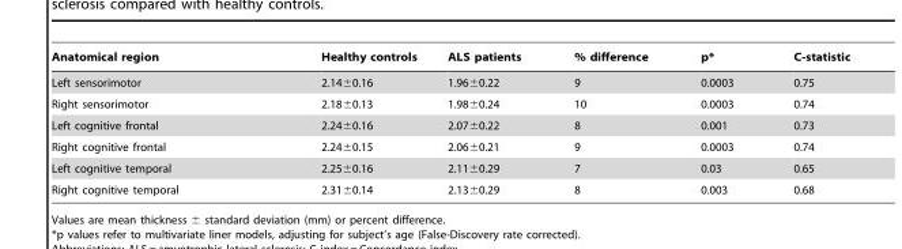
<table><thead><tr><td>Anatomical region</td><td>Healthy controls</td><td>ALS patients</td><td>% difference</td><td>p*</td><td>C-statistic</td></tr></thead><tbody><tr><td>Left sensorimotor</td><td>2.14±0.16</td><td>1.96±0.22</td><td>9</td><td>0.0003</td><td>0.75</td></tr><tr><td>Right sensorimotor</td><td>2.18±0.13</td><td>1.98±0.24</td><td>10</td><td>0.0003</td><td>0.74</td></tr><tr><td>Left cognitive frontal</td><td>2.24±0.16</td><td>2.07±0.22</td><td>8</td><td>0.001</td><td>0.73</td></tr><tr><td>Right cognitive frontal</td><td>2.24±0.15</td><td>2.06±0.21</td><td>9</td><td>0.0003</td><td>0.74</td></tr><tr><td>Left cognitive temporal</td><td>2.25±0.16</td><td>2.11±0.29</td><td>7</td><td>0.03</td><td>0.65</td></tr><tr><td>Right cognitive temporal</td><td>2.31±0.14</td><td>2.13±0.29</td><td>8</td><td>0.003</td><td>0.68</td></tr></tbody></table>